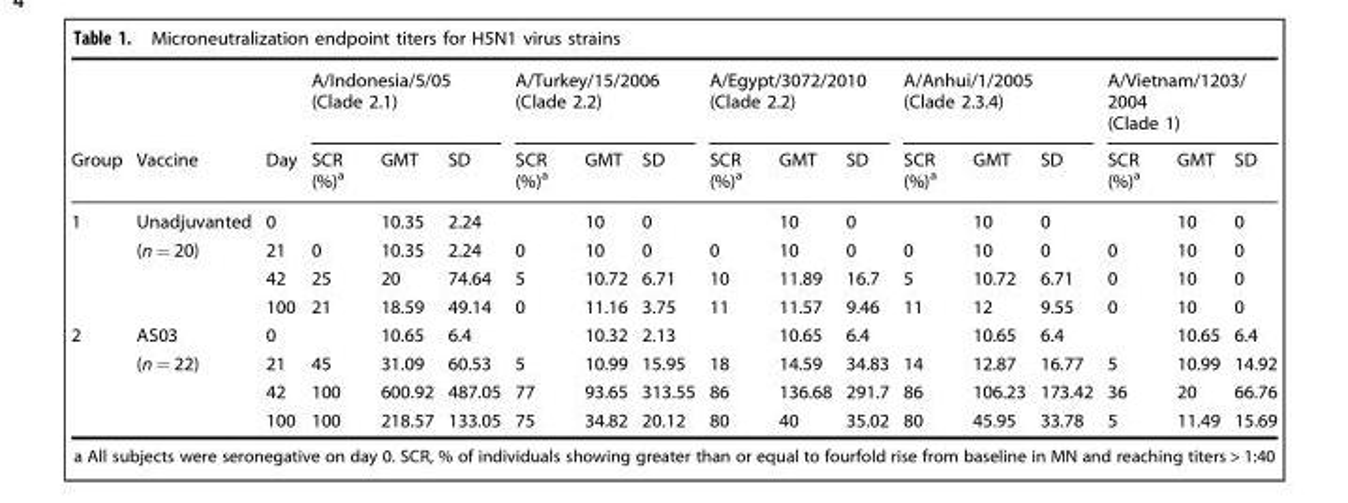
<table><thead><tr><td rowspan="2">Group</td><td rowspan="2">Vaccine</td><td rowspan="2">Day</td><td colspan="3">A/Indonesia/5/05 (Clade 2.1)</td><td colspan="3">A/Turkey/15/2006 (Clade 2.2)</td><td colspan="3">A/Egypt/3072/2010 (Clade 2.2)</td><td colspan="3">A/Anhui/1/2005 (Clade 2.3.4)</td><td colspan="3">A/Vietnam/1203/ 2004 (Clade 1)</td></tr><tr><td>SCR (%)<sup>a</sup></td><td>GMT</td><td>SD</td><td>SCR (%)<sup>a</sup></td><td>GMT</td><td>SD</td><td>SCR (%)<sup>a</sup></td><td>GMT</td><td>SD</td><td>SCR (%)<sup>a</sup></td><td>GMT</td><td>SD</td><td>SCR (%)<sup>a</sup></td><td>GMT</td><td>SD</td></tr></thead><tbody><tr><td rowspan="4">1</td><td>Unadjuvanted</td><td>0</td><td></td><td>10.35</td><td>2.24</td><td></td><td>10</td><td>0</td><td></td><td>10</td><td>0</td><td></td><td>10</td><td>0</td><td></td><td>10</td><td>0</td></tr><tr><td>(n = 20)</td><td>21</td><td>0</td><td>10.35</td><td>2.24</td><td>0</td><td>10</td><td>0</td><td>0</td><td>10</td><td>0</td><td>0</td><td>10</td><td>0</td><td>0</td><td>10</td><td>0</td></tr><tr><td></td><td>42</td><td>25</td><td>20</td><td>74.64</td><td>5</td><td>10.72</td><td>6.71</td><td>10</td><td>11.89</td><td>16.7</td><td>5</td><td>10.72</td><td>6.71</td><td>0</td><td>10</td><td>0</td></tr><tr><td></td><td>100</td><td>21</td><td>18.59</td><td>49.14</td><td>0</td><td>11.16</td><td>3.75</td><td>11</td><td>11.57</td><td>9.46</td><td>11</td><td>12</td><td>9.55</td><td>0</td><td>10</td><td>0</td></tr><tr><td rowspan="4">2</td><td>AS03</td><td>0</td><td></td><td>10.65</td><td>6.4</td><td></td><td>10.32</td><td>2.13</td><td></td><td>10.65</td><td>6.4</td><td></td><td>10.65</td><td>6.4</td><td></td><td>10.65</td><td>6.4</td></tr><tr><td>(n = 22)</td><td>21</td><td>45</td><td>31.09</td><td>60.53</td><td>5</td><td>10.99</td><td>15.95</td><td>18</td><td>14.59</td><td>34.83</td><td>14</td><td>12.87</td><td>16.77</td><td>5</td><td>10.99</td><td>14.92</td></tr><tr><td></td><td>42</td><td>100</td><td>600.92</td><td>487.05</td><td>77</td><td>93.65</td><td>313.55</td><td>86</td><td>136.68</td><td>291.7</td><td>86</td><td>106.23</td><td>173.42</td><td>36</td><td>20</td><td>66.76</td></tr><tr><td></td><td>100</td><td>100</td><td>218.57</td><td>133.05</td><td>75</td><td>34.82</td><td>20.12</td><td>80</td><td>40</td><td>35.02</td><td>80</td><td>45.95</td><td>33.78</td><td>5</td><td>11.49</td><td>15.69</td></tr></tbody></table>